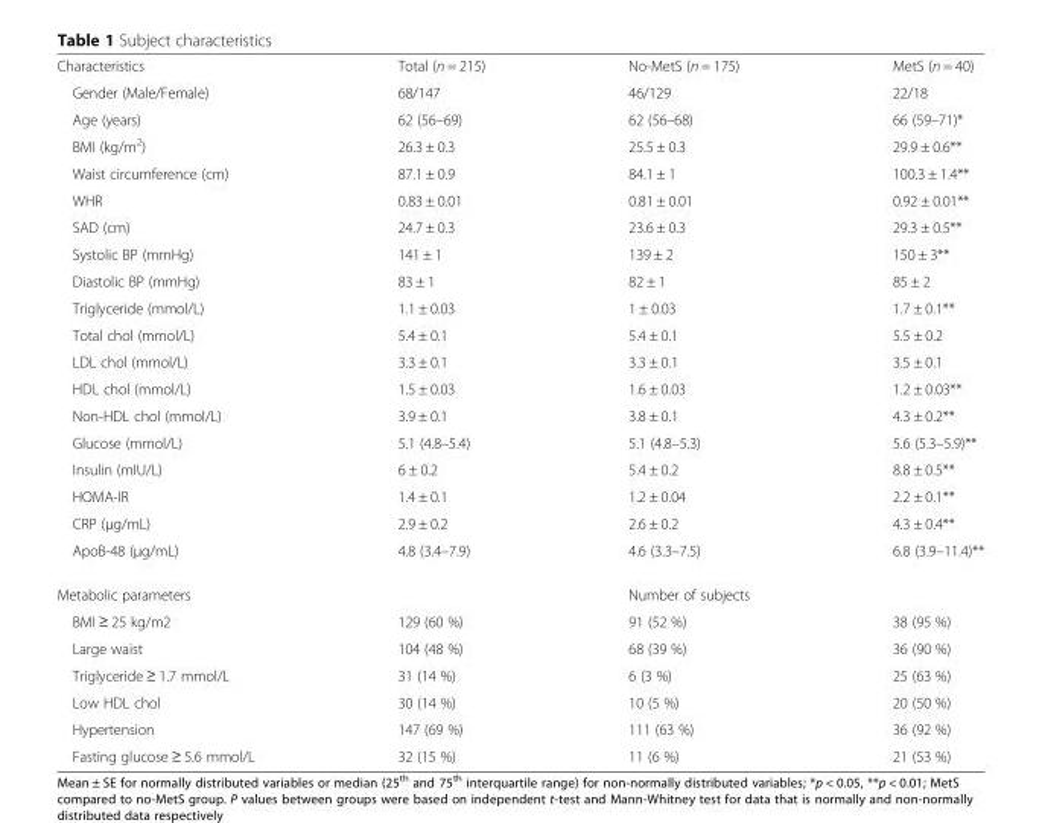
<table><tbody><tr><td>Characteristics</td><td>Total (n = 215)</td><td>No-MetS (n = 175)</td><td>MetS (n = 40)</td></tr><tr><td>Gender (Male/Female)</td><td>68/147</td><td>46/129</td><td>22/18</td></tr><tr><td>Age (years)</td><td>62 (56–69)</td><td>62 (56–68)</td><td>66 (59–71)*</td></tr><tr><td>BMI (kg/m<sup>2</sup>)</td><td>26.3 ± 0.3</td><td>25.5 ± 0.3</td><td>29.9 ± 0.6**</td></tr><tr><td>Waist circumference (cm)</td><td>87.1 ± 0.9</td><td>84.1 ± 1</td><td>100.3 ± 1.4**</td></tr><tr><td>WHR</td><td>0.83 ± 0.01</td><td>0.81 ± 0.01</td><td>0.92 ± 0.01**</td></tr><tr><td>SAD (cm)</td><td>24.7 ± 0.3</td><td>23.6 ± 0.3</td><td>29.3 ± 0.5**</td></tr><tr><td>Systolic BP (mmHg)</td><td>141 ± 1</td><td>139 ± 2</td><td>150 ± 3**</td></tr><tr><td>Diastolic BP (mmHg)</td><td>83 ± 1</td><td>82 ± 1</td><td>85 ± 2</td></tr><tr><td>Triglyceride (mmol/L)</td><td>1.1 ± 0.03</td><td>1 ± 0.03</td><td>1.7 ± 0.1**</td></tr><tr><td>Total chol (mmol/L)</td><td>5.4 ± 0.1</td><td>5.4 ± 0.1</td><td>5.5 ± 0.2</td></tr><tr><td>LDL chol (mmol/L)</td><td>3.3 ± 0.1</td><td>3.3 ± 0.1</td><td>3.5 ± 0.1</td></tr><tr><td>HDL chol (mmol/L)</td><td>1.5 ± 0.03</td><td>1.6 ± 0.03</td><td>1.2 ± 0.03**</td></tr><tr><td>Non-HDL chol (mmol/L)</td><td>3.9 ± 0.1</td><td>3.8 ± 0.1</td><td>4.3 ± 0.2**</td></tr><tr><td>Glucose (mmol/L)</td><td>5.1 (4.8–5.4)</td><td>5.1 (4.8–5.3)</td><td>5.6 (5.3–5.9)**</td></tr><tr><td>Insulin (mIU/L)</td><td>6 ± 0.2</td><td>5.4 ± 0.2</td><td>8.8 ± 0.5**</td></tr><tr><td>HOMA-IR</td><td>1.4 ± 0.1</td><td>1.2 ± 0.04</td><td>2.2 ± 0.1**</td></tr><tr><td>CRP (μg/mL)</td><td>2.9 ± 0.2</td><td>2.6 ± 0.2</td><td>4.3 ± 0.4**</td></tr><tr><td>ApoB-48 (μg/mL)</td><td>4.8 (3.4–7.9)</td><td>4.6 (3.3–7.5)</td><td>6.8 (3.9–11.4)**</td></tr><tr><td>Metabolic parameters</td><td></td><td>Number of subjects</td><td></td></tr><tr><td>BMI ≥ 25 kg/m2</td><td>129 (60 %)</td><td>91 (52 %)</td><td>38 (95 %)</td></tr><tr><td>Large waist</td><td>104 (48 %)</td><td>68 (39 %)</td><td>36 (90 %)</td></tr><tr><td>Triglyceride ≥ 1.7 mmol/L</td><td>31 (14 %)</td><td>6 (3 %)</td><td>25 (63 %)</td></tr><tr><td>Low HDL chol</td><td>30 (14 %)</td><td>10 (5 %)</td><td>20 (50 %)</td></tr><tr><td>Hypertension</td><td>147 (69 %)</td><td>111 (63 %)</td><td>36 (92 %)</td></tr><tr><td>Fasting glucose ≥ 5.6 mmol/L</td><td>32 (15 %)</td><td>11 (6 %)</td><td>21 (53 %)</td></tr></tbody></table>